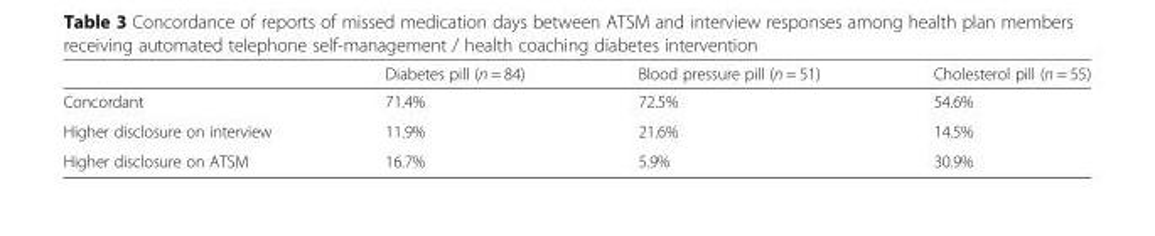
<table><thead><tr><td></td><td>Diabetes pill (n = 84)</td><td>Blood pressure pill (n = 51)</td><td>Cholesterol pill (n = 55)</td></tr></thead><tbody><tr><td>Concordant</td><td>71.4%</td><td>72.5%</td><td>54.6%</td></tr><tr><td>Higher disclosure on interview</td><td>11.9%</td><td>21.6%</td><td>14.5%</td></tr><tr><td>Higher disclosure on ATSM</td><td>16.7%</td><td>5.9%</td><td>30.9%</td></tr></tbody></table>